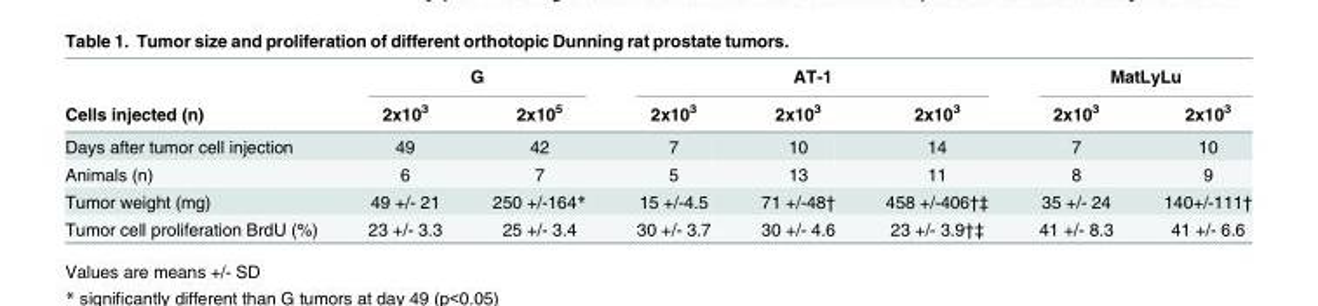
<table><thead><tr><td rowspan="2">Cells injected (n)</td><td colspan="2">G</td><td colspan="3">AT-1</td><td colspan="2">MatLyLu</td></tr><tr><td>2x10<sup>3</sup></td><td>2x10<sup>5</sup></td><td>2x10<sup>3</sup></td><td>2x10<sup>3</sup></td><td>2x10<sup>3</sup></td><td>2x10<sup>3</sup></td><td>2x10<sup>3</sup></td></tr></thead><tbody><tr><td>Days after tumor cell injection</td><td>49</td><td>42</td><td>7</td><td>10</td><td>14</td><td>7</td><td>10</td></tr><tr><td>Animals (n)</td><td>6</td><td>7</td><td>5</td><td>13</td><td>11</td><td>8</td><td>9</td></tr><tr><td>Tumor weight (mg)</td><td>49 +/- 21</td><td>250 +/-164*</td><td>15 +/-4.5</td><td>71 +/-48†</td><td>458 +/-406†‡</td><td>35 +/- 24</td><td>140+/-111†</td></tr><tr><td>Tumor cell proliferation BrdU (%)</td><td>23 +/- 3.3</td><td>25 +/- 3.4</td><td>30 +/- 3.7</td><td>30 +/- 4.6</td><td>23 +/- 3.9†‡</td><td>41 +/- 8.3</td><td>41 +/- 6.6</td></tr></tbody></table>